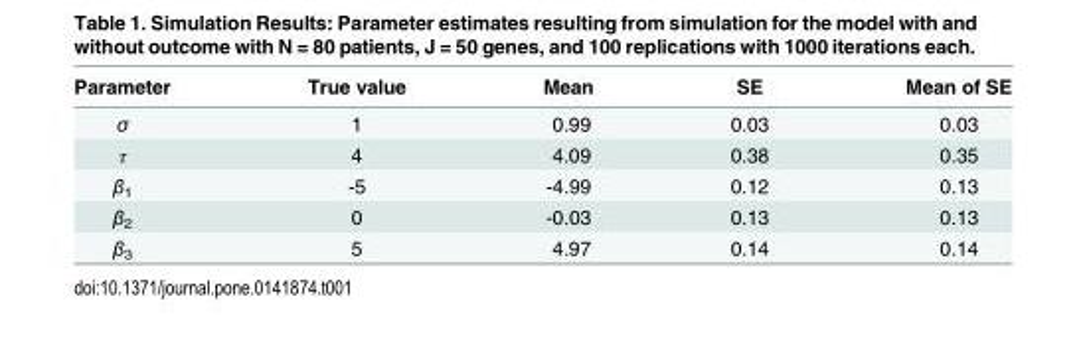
<table><thead><tr><td>Parameter</td><td>True value</td><td>Mean</td><td>SE</td><td>Mean of SE</td></tr></thead><tbody><tr><td>σ</td><td>1</td><td>0.99</td><td>0.03</td><td>0.03</td></tr><tr><td>τ</td><td>4</td><td>4.09</td><td>0.38</td><td>0.35</td></tr><tr><td>β<sub>1</sub></td><td>-5</td><td>-4.99</td><td>0.12</td><td>0.13</td></tr><tr><td>β<sub>2</sub></td><td>0</td><td>-0.03</td><td>0.13</td><td>0.13</td></tr><tr><td>β<sub>3</sub></td><td>5</td><td>4.97</td><td>0.14</td><td>0.14</td></tr></tbody></table>